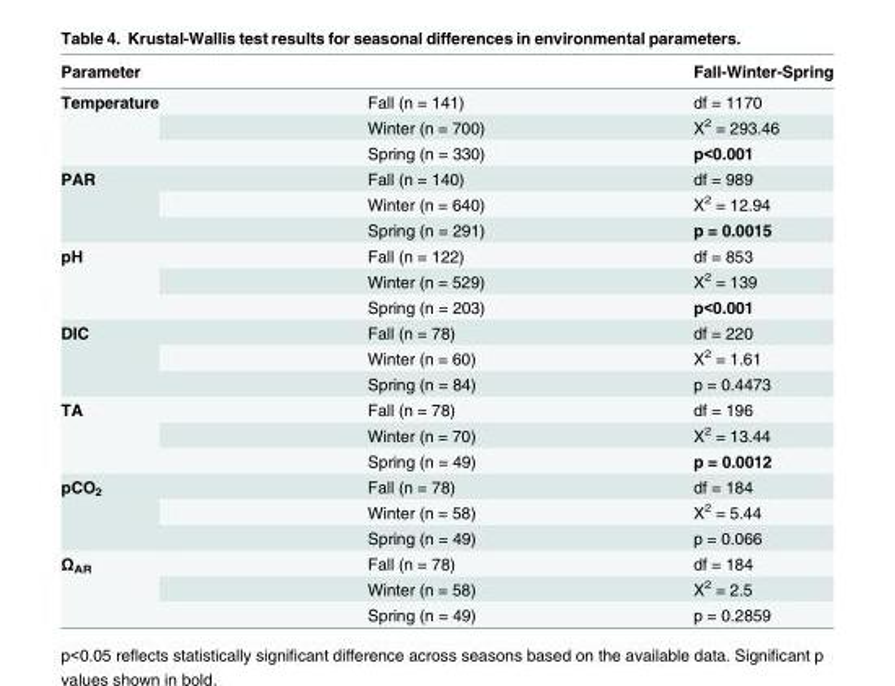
<table><thead><tr><td>Parameter</td><td></td><td>Fall-Winter-Spring</td></tr></thead><tbody><tr><td rowspan="3">Temperature</td><td>Fall (n = 141)</td><td>df = 1170</td></tr><tr><td>Winter (n = 700)</td><td>X<sup>2</sup> = 293.46</td></tr><tr><td>Spring (n = 330)</td><td>p&lt;0.001</td></tr><tr><td rowspan="3">PAR</td><td>Fall (n = 140)</td><td>df = 989</td></tr><tr><td>Winter (n = 640)</td><td>X<sup>2</sup> = 12.94</td></tr><tr><td>Spring (n = 291)</td><td>p = 0.0015</td></tr><tr><td rowspan="3">pH</td><td>Fall (n = 122)</td><td>df = 853</td></tr><tr><td>Winter (n = 529)</td><td>X<sup>2</sup> = 139</td></tr><tr><td>Spring (n = 203)</td><td>p&lt;0.001</td></tr><tr><td rowspan="3">DIC</td><td>Fall (n = 78)</td><td>df = 220</td></tr><tr><td>Winter (n = 60)</td><td>X<sup>2</sup> = 1.61</td></tr><tr><td>Spring (n = 84)</td><td>p = 0.4473</td></tr><tr><td rowspan="3">TA</td><td>Fall (n = 78)</td><td>df = 196</td></tr><tr><td>Winter (n = 70)</td><td>X<sup>2</sup> = 13.44</td></tr><tr><td>Spring (n = 49)</td><td>p = 0.0012</td></tr><tr><td rowspan="3">pCO<sub>2</sub></td><td>Fall (n = 78)</td><td>df = 184</td></tr><tr><td>Winter (n = 58)</td><td>X<sup>2</sup> = 5.44</td></tr><tr><td>Spring (n = 49)</td><td>p = 0.066</td></tr><tr><td rowspan="3">Ω<sub>AR</sub></td><td>Fall (n = 78)</td><td>df = 184</td></tr><tr><td>Winter (n = 58)</td><td>X<sup>2</sup> = 2.5</td></tr><tr><td>Spring (n = 49)</td><td>p = 0.2859</td></tr></tbody></table>